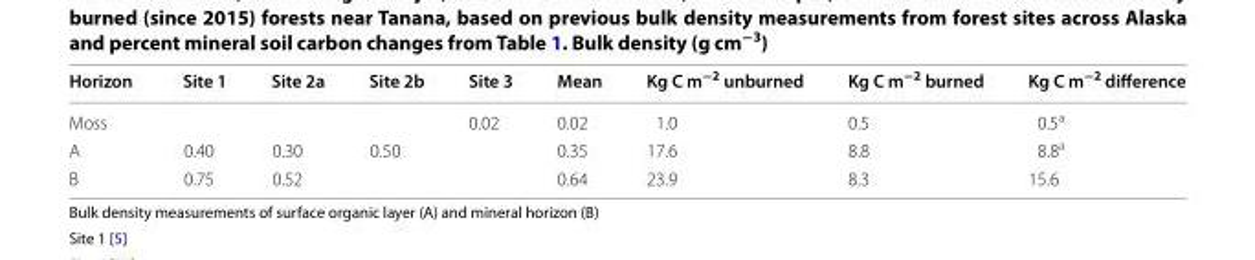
<table><thead><tr><td>Horizon</td><td>Site 1</td><td>Site 2a</td><td>Site 2b</td><td>Site 3</td><td>Mean</td><td>Kg C m<sup>−2</sup> unburned</td><td>Kg C m<sup>−2</sup> burned</td><td>Kg C m<sup>−2</sup> difference</td></tr></thead><tbody><tr><td>Moss</td><td></td><td></td><td></td><td>0.02</td><td>0.02</td><td>1.0</td><td>0.5</td><td>0.5<sup>a</sup></td></tr><tr><td>A</td><td>0.40</td><td>0.30</td><td>0.50</td><td></td><td>0.35</td><td>17.6</td><td>8.8</td><td>8.8<sup>a</sup></td></tr><tr><td>B</td><td>0.75</td><td>0.52</td><td></td><td></td><td>0.64</td><td>23.9</td><td>8.3</td><td>15.6</td></tr></tbody></table>